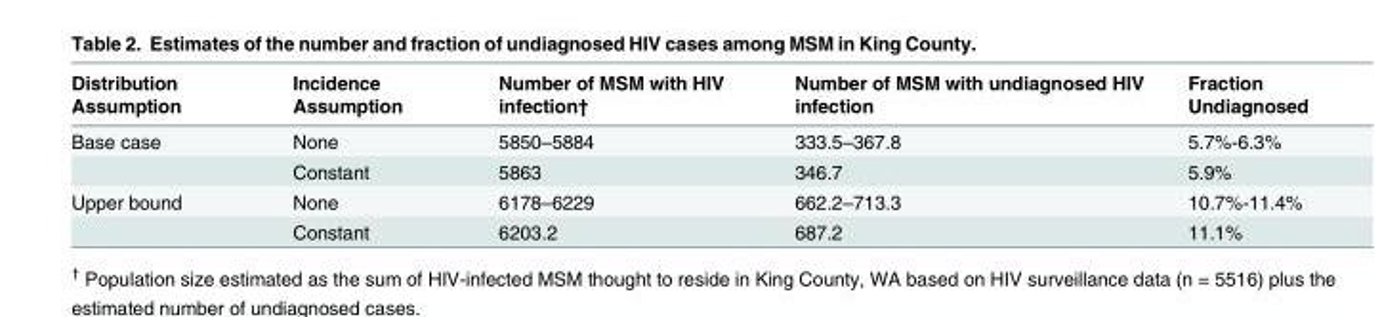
<table><thead><tr><td>Distribution Assumption</td><td>Incidence Assumption</td><td>Number of MSM with HIV infection†</td><td>Number of MSM with undiagnosed HIV infection</td><td>Fraction Undiagnosed</td></tr></thead><tbody><tr><td rowspan="2">Base case</td><td>None</td><td>5850–5884</td><td>333.5–367.8</td><td>5.7%-6.3%</td></tr><tr><td>Constant</td><td>5863</td><td>346.7</td><td>5.9%</td></tr><tr><td rowspan="2">Upper bound</td><td>None</td><td>6178–6229</td><td>662.2–713.3</td><td>10.7%-11.4%</td></tr><tr><td>Constant</td><td>6203.2</td><td>687.2</td><td>11.1%</td></tr></tbody></table>